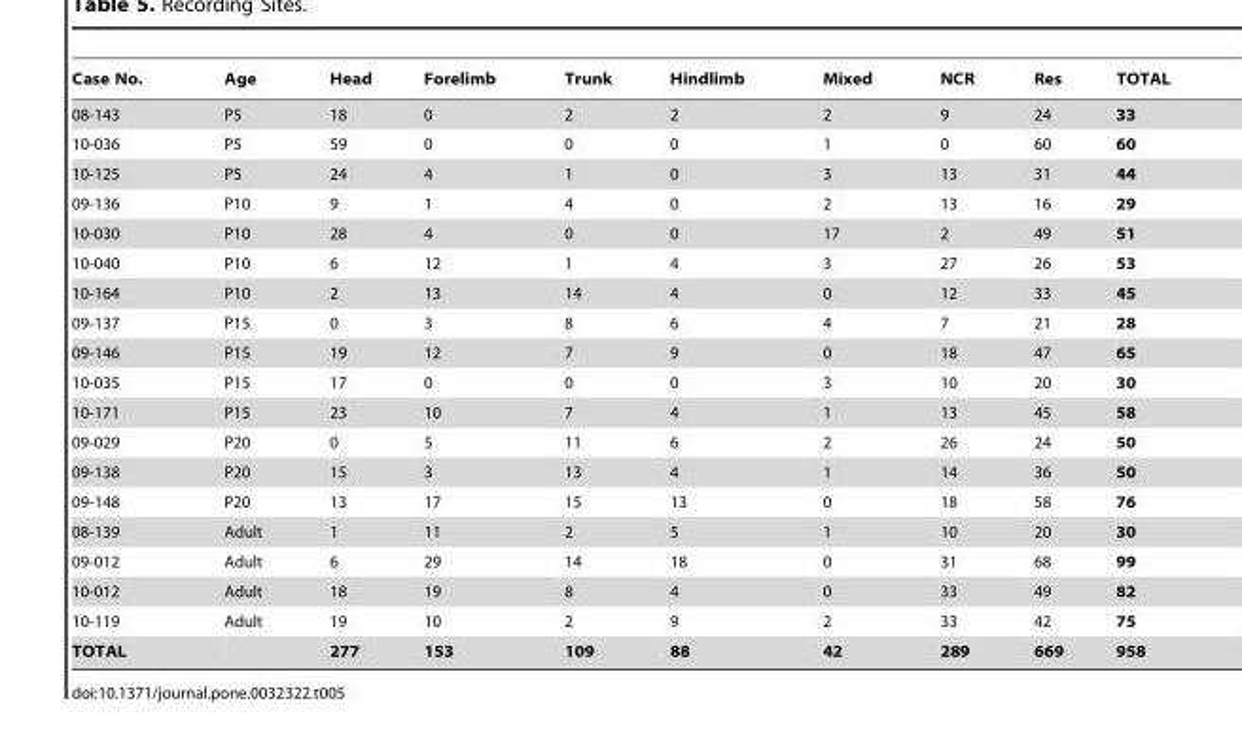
<table><thead><tr><td>Case No.</td><td>Age</td><td>Head</td><td>Forelimb</td><td>Trunk</td><td>Hindlimb</td><td>Mixed</td><td>NCR</td><td>Res</td><td>TOTAL</td></tr></thead><tbody><tr><td>08-143</td><td>P5</td><td>18</td><td>0</td><td>2</td><td>2</td><td>2</td><td>9</td><td>24</td><td>33</td></tr><tr><td>10-036</td><td>P5</td><td>59</td><td>0</td><td>0</td><td>0</td><td>1</td><td>0</td><td>60</td><td>60</td></tr><tr><td>10-125</td><td>P5</td><td>24</td><td>4</td><td>1</td><td>0</td><td>3</td><td>13</td><td>31</td><td>44</td></tr><tr><td>09-136</td><td>P10</td><td>9</td><td>1</td><td>4</td><td>0</td><td>2</td><td>13</td><td>16</td><td>29</td></tr><tr><td>10-030</td><td>P10</td><td>28</td><td>4</td><td>0</td><td>0</td><td>17</td><td>2</td><td>49</td><td>51</td></tr><tr><td>10-040</td><td>P10</td><td>6</td><td>12</td><td>1</td><td>4</td><td>3</td><td>27</td><td>26</td><td>53</td></tr><tr><td>10-164</td><td>P10</td><td>2</td><td>13</td><td>14</td><td>4</td><td>0</td><td>12</td><td>33</td><td>45</td></tr><tr><td>09-137</td><td>P15</td><td>0</td><td>3</td><td>8</td><td>6</td><td>4</td><td>7</td><td>21</td><td>28</td></tr><tr><td>09-146</td><td>P15</td><td>19</td><td>12</td><td>7</td><td>9</td><td>0</td><td>18</td><td>47</td><td>65</td></tr><tr><td>10-035</td><td>P15</td><td>17</td><td>0</td><td>0</td><td>0</td><td>3</td><td>10</td><td>20</td><td>30</td></tr><tr><td>10-171</td><td>P15</td><td>23</td><td>10</td><td>7</td><td>4</td><td>1</td><td>13</td><td>45</td><td>58</td></tr><tr><td>09-029</td><td>P20</td><td>0</td><td>5</td><td>11</td><td>6</td><td>2</td><td>26</td><td>24</td><td>50</td></tr><tr><td>09-138</td><td>P20</td><td>15</td><td>3</td><td>13</td><td>4</td><td>1</td><td>14</td><td>36</td><td>50</td></tr><tr><td>09-148</td><td>P20</td><td>13</td><td>17</td><td>15</td><td>13</td><td>0</td><td>18</td><td>58</td><td>76</td></tr><tr><td>08-139</td><td>Adult</td><td>1</td><td>11</td><td>2</td><td>5</td><td>1</td><td>10</td><td>20</td><td>30</td></tr><tr><td>09-012</td><td>Adult</td><td>6</td><td>29</td><td>14</td><td>18</td><td>0</td><td>31</td><td>68</td><td>99</td></tr><tr><td>10-012</td><td>Adult</td><td>18</td><td>19</td><td>8</td><td>4</td><td>0</td><td>33</td><td>49</td><td>82</td></tr><tr><td>10-119</td><td>Adult</td><td>19</td><td>10</td><td>2</td><td>9</td><td>2</td><td>33</td><td>42</td><td>75</td></tr><tr><td>TOTAL</td><td></td><td>277</td><td>153</td><td>109</td><td>88</td><td>42</td><td>289</td><td>669</td><td>958</td></tr></tbody></table>